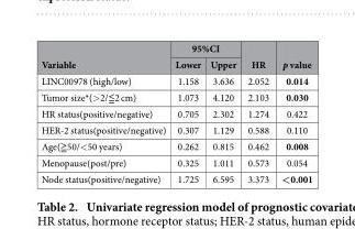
<table><thead><tr><td rowspan="2">Variable</td><td colspan="2">95%CI</td><td rowspan="2">HR</td><td rowspan="2">p value</td></tr><tr><td>Lower</td><td>Upper</td></tr></thead><tbody><tr><td>LINC00978 (high/low)</td><td>1.158</td><td>3.636</td><td>2.052</td><td>0.014</td></tr><tr><td>Tumor size*(&gt; 2/≦ 2 cm)</td><td>1.073</td><td>4.120</td><td>2.103</td><td>0.030</td></tr><tr><td>HR status(positive/negative)</td><td>0.705</td><td>2.302</td><td>1.274</td><td>0.422</td></tr><tr><td>HER-2 status(positive/negative)</td><td>0.307</td><td>1.129</td><td>0.588</td><td>0.110</td></tr><tr><td>Age(≧ 50/&lt; 50 years)</td><td>0.262</td><td>0.815</td><td>0.462</td><td>0.008</td></tr><tr><td>Menopause(post/pre)</td><td>0.325</td><td>1.011</td><td>0.573</td><td>0.054</td></tr><tr><td>Node status(positive/negative)</td><td>1.725</td><td>6.595</td><td>3.373</td><td>&lt;0.001</td></tr></tbody></table>